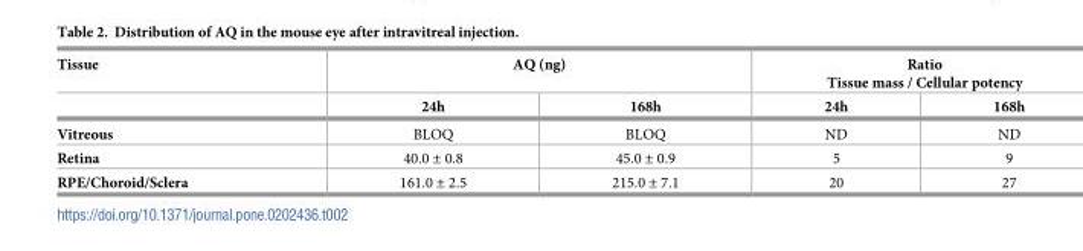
<table><thead><tr><td rowspan="2">Tissue</td><td colspan="2">AQ (ng)</td><td colspan="2">Ratio Tissue mass / Cellular potency</td></tr><tr><td>24h</td><td>168h</td><td>24h</td><td>168h</td></tr></thead><tbody><tr><td>Vitreous</td><td>BLOQ</td><td>BLOQ</td><td>ND</td><td>ND</td></tr><tr><td>Retina</td><td>40.0 ± 0.8</td><td>45.0 ± 0.9</td><td>5</td><td>9</td></tr><tr><td>RPE/Choroid/Sclera</td><td>161.0 ± 2.5</td><td>215.0 ± 7.1</td><td>20</td><td>27</td></tr></tbody></table>